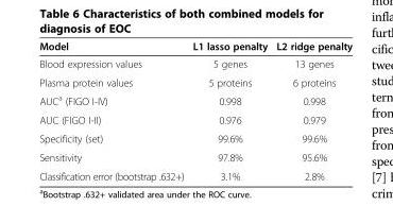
<table><thead><tr><td>Model</td><td>L1 lasso penalty</td><td>L2 ridge penalty</td></tr></thead><tbody><tr><td>Blood expression values</td><td>5 genes</td><td>13 genes</td></tr><tr><td>Plasma protein values</td><td>5 proteins</td><td>6 proteins</td></tr><tr><td>AUC<sup>a</sup> (FIGO I-IV)</td><td>0.998</td><td>0.998</td></tr><tr><td>AUC (FIGO I-II)</td><td>0.976</td><td>0.979</td></tr><tr><td>Specificity (set)</td><td>99.6%</td><td>99.6%</td></tr><tr><td>Sensitivity</td><td>97.8%</td><td>95.6%</td></tr><tr><td>Classification error (bootstrap .632+)</td><td>3.1%</td><td>2.8%</td></tr></tbody></table>